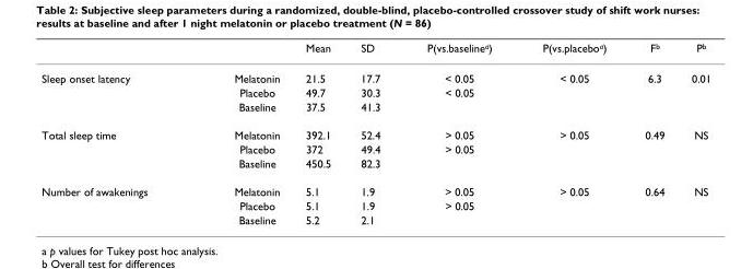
<table><thead><tr><td></td><td></td><td>Mean</td><td>SD</td><td>P(vs.baseline<sup>a</sup>)</td><td>P(vs.placebo<sup>a</sup>)</td><td>F<sup>b</sup></td><td>P<sup>b</sup></td></tr></thead><tbody><tr><td rowspan="3">Sleep onset latency</td><td>Melatonin</td><td>21.5</td><td>17.7</td><td>&lt; 0.05</td><td>&lt; 0.05</td><td>6.3</td><td>0.01</td></tr><tr><td>Placebo</td><td>49.7</td><td>30.3</td><td>&lt; 0.05</td><td></td><td></td><td></td></tr><tr><td>Baseline</td><td>37.5</td><td>41.3</td><td></td><td></td><td></td><td></td></tr><tr><td rowspan="3">Total sleep time</td><td>Melatonin</td><td>392.1</td><td>52.4</td><td>&gt; 0.05</td><td>&gt; 0.05</td><td>0.49</td><td>NS</td></tr><tr><td>Placebo</td><td>372</td><td>49.4</td><td>&gt; 0.05</td><td></td><td></td><td></td></tr><tr><td>Baseline</td><td>450.5</td><td>82.3</td><td></td><td></td><td></td><td></td></tr><tr><td rowspan="3">Number of awakenings</td><td>Melatonin</td><td>5.1</td><td>1.9</td><td>&gt; 0.05</td><td>&gt; 0.05</td><td>0.64</td><td>NS</td></tr><tr><td>Placebo</td><td>5.1</td><td>1.9</td><td>&gt; 0.05</td><td></td><td></td><td></td></tr><tr><td>Baseline</td><td>5.2</td><td>2.1</td><td></td><td></td><td></td><td></td></tr></tbody></table>